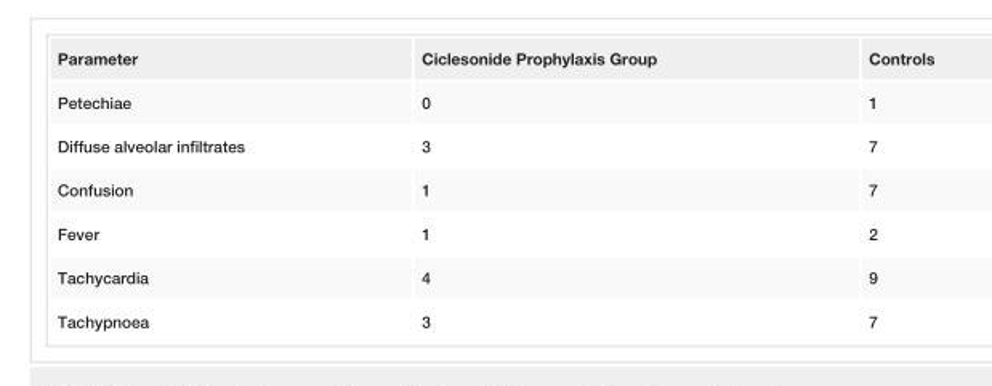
<table><tbody><tr><td>Parameter</td><td>Ciclesonide Prophylaxis Group</td><td>Controls</td></tr><tr><td>Petechiae</td><td>0</td><td>1</td></tr><tr><td>Diffuse alveolar infiltrates</td><td>3</td><td>7</td></tr><tr><td>Confusion</td><td>1</td><td>7</td></tr><tr><td>Fever</td><td>1</td><td>2</td></tr><tr><td>Tachycardia</td><td>4</td><td>9</td></tr><tr><td>Tachypnoea</td><td>3</td><td>7</td></tr></tbody></table>